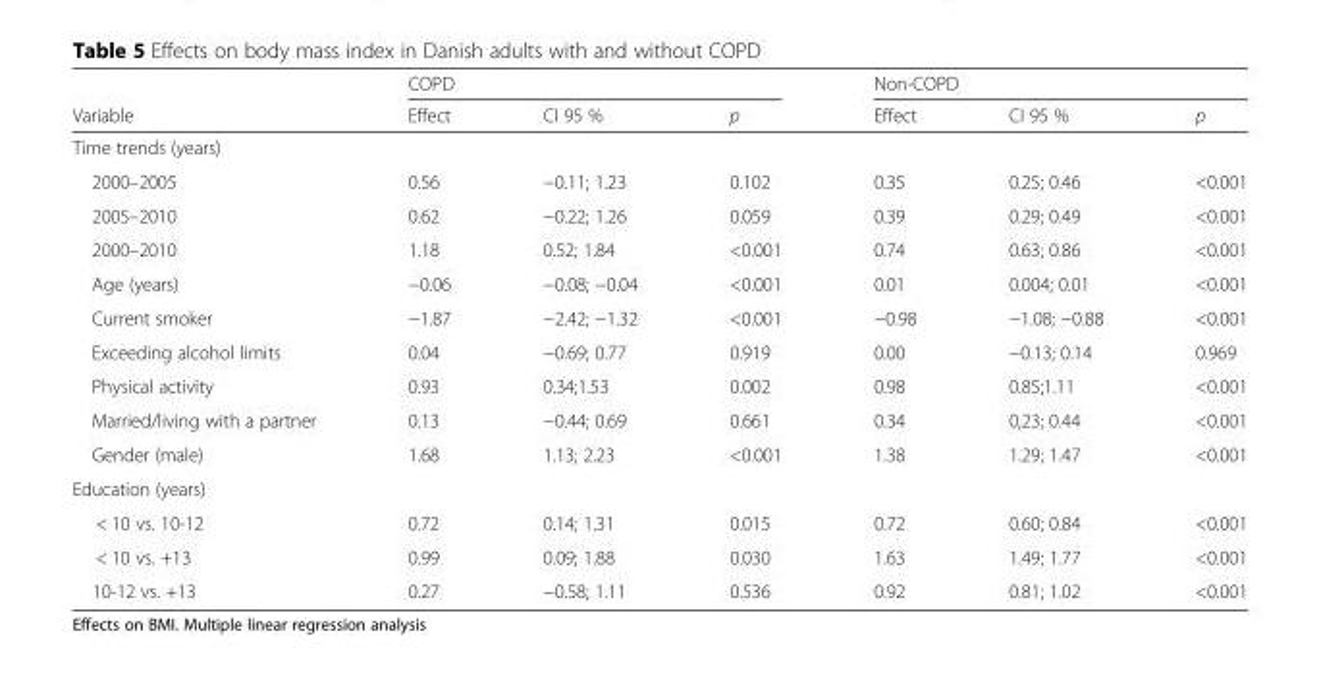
<table><thead><tr><td rowspan="2">Variable</td><td colspan="3">COPD</td><td colspan="3">Non-COPD</td></tr><tr><td>Effect</td><td>CI 95 %</td><td>p</td><td>Effect</td><td>CI 95 %</td><td>p</td></tr></thead><tbody><tr><td colspan="7">Time trends (years)</td></tr><tr><td>2000–2005</td><td>0.56</td><td>−0.11; 1.23</td><td>0.102</td><td>0.35</td><td>0.25; 0.46</td><td>&lt;0.001</td></tr><tr><td>2005–2010</td><td>0.62</td><td>−0.22; 1.26</td><td>0.059</td><td>0.39</td><td>0.29; 0.49</td><td>&lt;0.001</td></tr><tr><td>2000–2010</td><td>1.18</td><td>0.52; 1.84</td><td>&lt;0.001</td><td>0.74</td><td>0.63; 0.86</td><td>&lt;0.001</td></tr><tr><td>Age (years)</td><td>−0.06</td><td>−0.08; −0.04</td><td>&lt;0.001</td><td>0.01</td><td>0.004; 0.01</td><td>&lt;0.001</td></tr><tr><td>Current smoker</td><td>−1.87</td><td>−2.42; −1.32</td><td>&lt;0.001</td><td>−0.98</td><td>−1.08; −0.88</td><td>&lt;0.001</td></tr><tr><td>Exceeding alcohol limits</td><td>0.04</td><td>−0.69; 0.77</td><td>0.919</td><td>0.00</td><td>−0.13; 0.14</td><td>0.969</td></tr><tr><td>Physical activity</td><td>0.93</td><td>0.34;1.53</td><td>0.002</td><td>0.98</td><td>0.85;1.11</td><td>&lt;0.001</td></tr><tr><td>Married/living with a partner</td><td>0.13</td><td>−0.44; 0.69</td><td>0.661</td><td>0.34</td><td>0,23; 0.44</td><td>&lt;0.001</td></tr><tr><td>Gender (male)</td><td>1.68</td><td>1.13; 2.23</td><td>&lt;0.001</td><td>1.38</td><td>1.29; 1.47</td><td>&lt;0.001</td></tr><tr><td colspan="7">Education (years)</td></tr><tr><td>&lt; 10 vs. 10-12</td><td>0.72</td><td>0.14; 1.31</td><td>0.015</td><td>0.72</td><td>0.60; 0.84</td><td>&lt;0.001</td></tr><tr><td>&lt; 10 vs. +13</td><td>0.99</td><td>0.09; 1.88</td><td>0.030</td><td>1.63</td><td>1.49; 1.77</td><td>&lt;0.001</td></tr><tr><td>10-12 vs. +13</td><td>0.27</td><td>−0.58; 1.11</td><td>0.536</td><td>0.92</td><td>0.81; 1.02</td><td>&lt;0.001</td></tr></tbody></table>